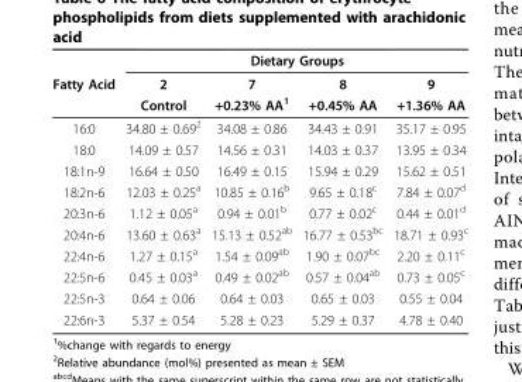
<table><thead><tr><td rowspan="3">Fatty Acid</td><td colspan="4">Dietary Groups</td></tr><tr><td rowspan="2">2 Control</td><td rowspan="2">7 +0.23% AA<sup>1</sup></td><td rowspan="2">8 +0.45% AA</td><td rowspan="2">9 +1.36% AA</td></tr><tr></tr></thead><tbody><tr><td>16:0</td><td>34.80 ± 0.69<sup>2</sup></td><td>34.08 ± 0.86</td><td>34.43 ± 0.91</td><td>35.17 ± 0.95</td></tr><tr><td>18:0</td><td>14.09 ± 0.57</td><td>14.56 ± 0.31</td><td>14.03 ± 0.37</td><td>13.95 ± 0.34</td></tr><tr><td>18:1n-9</td><td>16.64 ± 0.50</td><td>16.49 ± 0.15</td><td>15.94 ± 0.29</td><td>15.62 ± 0.51</td></tr><tr><td>18:2n-6</td><td>12.03 ± 0.25<sup>a</sup></td><td>10.85 ± 0.16<sup>b</sup></td><td>9.65 ± 0.18<sup>c</sup></td><td>7.84 ± 0.07<sup>d</sup></td></tr><tr><td>20:3n-6</td><td>1.12 ± 0.05<sup>a</sup></td><td>0.94 ± 0.01<sup>b</sup></td><td>0.77 ± 0.02<sup>c</sup></td><td>0.44 ± 0.01<sup>d</sup></td></tr><tr><td>20:4n-6</td><td>13.60 ± 0.63<sup>a</sup></td><td>15.13 ± 0.52<sup>ab</sup></td><td>16.77 ± 0.53<sup>bc</sup></td><td>18.71 ± 0.93<sup>c</sup></td></tr><tr><td>22:4n-6</td><td>1.27 ± 0.15<sup>a</sup></td><td>1.54 ± 0.09<sup>ab</sup></td><td>1.90 ± 0.07<sup>bc</sup></td><td>2.20 ± 0.11<sup>c</sup></td></tr><tr><td>22:5n-6</td><td>0.45 ± 0.03<sup>a</sup></td><td>0.49 ± 0.02<sup>ab</sup></td><td>0.57 ± 0.04<sup>ab</sup></td><td>0.73 ± 0.05<sup>c</sup></td></tr><tr><td>22:5n-3</td><td>0.64 ± 0.06</td><td>0.64 ± 0.03</td><td>0.65 ± 0.03</td><td>0.55 ± 0.04</td></tr><tr><td>22:6n-3</td><td>5.37 ± 0.54</td><td>5.28 ± 0.23</td><td>5.29 ± 0.37</td><td>4.78 ± 0.40</td></tr></tbody></table>